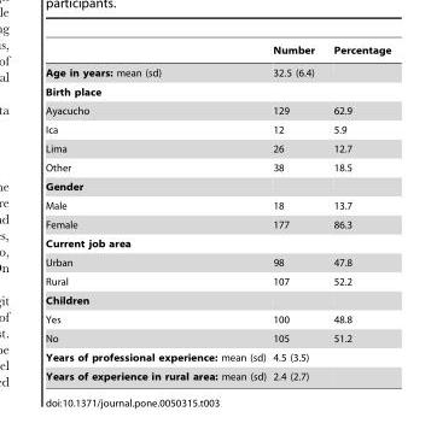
<table><thead><tr><td></td><td>Number</td><td>Percentage</td></tr></thead><tbody><tr><td>Age in years: mean (sd)</td><td>32.5 (6.4)</td><td></td></tr><tr><td colspan="3">Birth place</td></tr><tr><td>Ayacucho</td><td>129</td><td>62.9</td></tr><tr><td>Ica</td><td>12</td><td>5.9</td></tr><tr><td>Lima</td><td>26</td><td>12.7</td></tr><tr><td>Other</td><td>38</td><td>18.5</td></tr><tr><td colspan="3">Gender</td></tr><tr><td>Male</td><td>18</td><td>13.7</td></tr><tr><td>Female</td><td>177</td><td>86.3</td></tr><tr><td colspan="3">Current job area</td></tr><tr><td>Urban</td><td>98</td><td>47.8</td></tr><tr><td>Rural</td><td>107</td><td>52.2</td></tr><tr><td colspan="3">Children</td></tr><tr><td>Yes</td><td>100</td><td>48.8</td></tr><tr><td>No</td><td>105</td><td>51.2</td></tr><tr><td>Years of professional experience: mean (sd)</td><td>4.5 (3.5)</td><td></td></tr><tr><td>Years of experience in rural area: mean (sd)</td><td>2.4 (2.7)</td><td></td></tr></tbody></table>